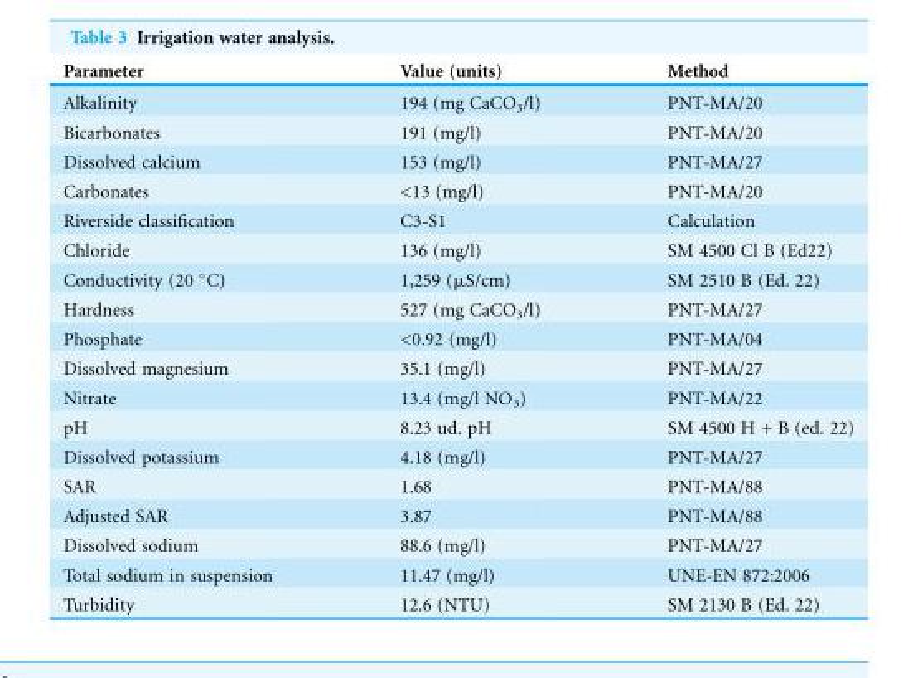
<table><thead><tr><td>Parameter</td><td>Value (units)</td><td>Method</td></tr></thead><tbody><tr><td>Alkalinity</td><td>194 (mg CaCO<sub>3</sub>/l)</td><td>PNT-MA/20</td></tr><tr><td>Bicarbonates</td><td>191 (mg/l)</td><td>PNT-MA/20</td></tr><tr><td>Dissolved calcium</td><td>153 (mg/l)</td><td>PNT-MA/27</td></tr><tr><td>Carbonates</td><td>&lt;13 (mg/l)</td><td>PNT-MA/20</td></tr><tr><td>Riverside classification</td><td>C3-S1</td><td>Calculation</td></tr><tr><td>Chloride</td><td>136 (mg/l)</td><td>SM 4500 Cl B (Ed22)</td></tr><tr><td>Conductivity (20 °C)</td><td>1,259 (μS/cm)</td><td>SM 2510 B (Ed. 22)</td></tr><tr><td>Hardness</td><td>527 (mg CaCO<sub>3</sub>/l)</td><td>PNT-MA/27</td></tr><tr><td>Phosphate</td><td>&lt;0.92 (mg/l)</td><td>PNT-MA/04</td></tr><tr><td>Dissolved magnesium</td><td>35.1 (mg/l)</td><td>PNT-MA/27</td></tr><tr><td>Nitrate</td><td>13.4 (mg/l NO<sub>3</sub>)</td><td>PNT-MA/22</td></tr><tr><td>pH</td><td>8.23 ud. pH</td><td>SM 4500 H + B (ed. 22)</td></tr><tr><td>Dissolved potassium</td><td>4.18 (mg/l)</td><td>PNT-MA/27</td></tr><tr><td>SAR</td><td>1.68</td><td>PNT-MA/88</td></tr><tr><td>Adjusted SAR</td><td>3.87</td><td>PNT-MA/88</td></tr><tr><td>Dissolved sodium</td><td>88.6 (mg/l)</td><td>PNT-MA/27</td></tr><tr><td>Total sodium in suspension</td><td>11.47 (mg/l)</td><td>UNE-EN 872:2006</td></tr><tr><td>Turbidity</td><td>12.6 (NTU)</td><td>SM 2130 B (Ed. 22)</td></tr></tbody></table>